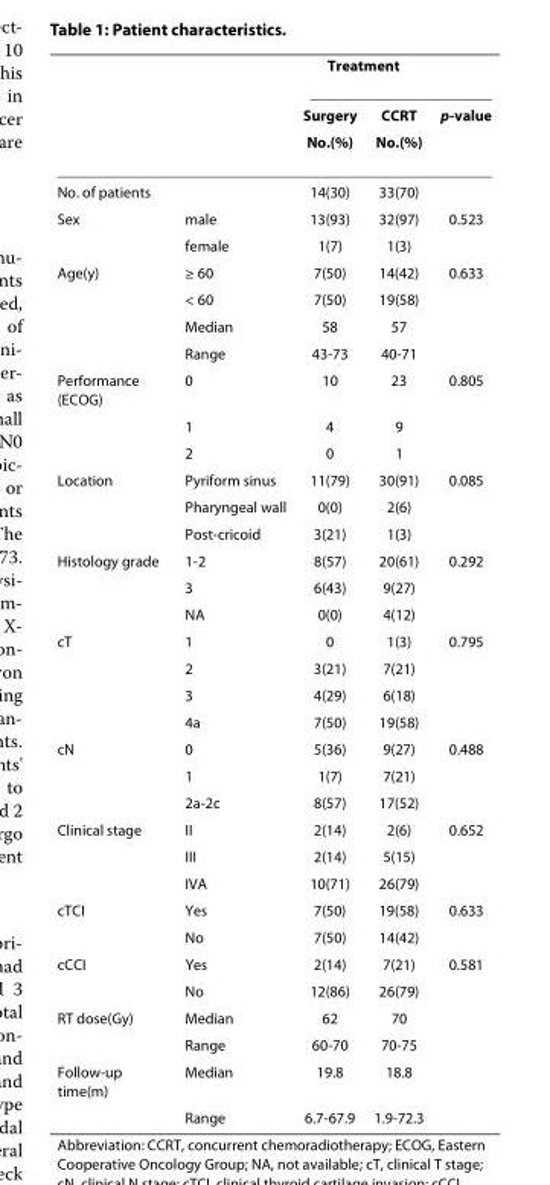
<table><thead><tr><td rowspan="3"></td><td rowspan="3"></td><td colspan="2">Treatment</td><td rowspan="3">p-value</td></tr><tr><td rowspan="2">Surgery No.(%)</td><td rowspan="2">CCRT No.(%)</td></tr><tr></tr></thead><tbody><tr><td>No. of patients</td><td></td><td>14(30)</td><td>33(70)</td><td></td></tr><tr><td rowspan="2">Sex</td><td>male</td><td>13(93)</td><td>32(97)</td><td>0.523</td></tr><tr><td>female</td><td>1(7)</td><td>1(3)</td><td></td></tr><tr><td rowspan="4">Age(y)</td><td>≥ 60</td><td>7(50)</td><td>14(42)</td><td>0.633</td></tr><tr><td>&lt; 60</td><td>7(50)</td><td>19(58)</td><td></td></tr><tr><td>Median</td><td>58</td><td>57</td><td></td></tr><tr><td>Range</td><td>43-73</td><td>40-71</td><td></td></tr><tr><td rowspan="3">Performance (ECOG)</td><td>0</td><td>10</td><td>23</td><td>0.805</td></tr><tr><td>1</td><td>4</td><td>9</td><td></td></tr><tr><td>2</td><td>0</td><td>1</td><td></td></tr><tr><td rowspan="3">Location</td><td>Pyriform sinus</td><td>11(79)</td><td>30(91)</td><td>0.085</td></tr><tr><td>Pharyngeal wall</td><td>0(0)</td><td>2(6)</td><td></td></tr><tr><td>Post-cricoid</td><td>3(21)</td><td>1(3)</td><td></td></tr><tr><td rowspan="3">Histology grade</td><td>1-2</td><td>8(57)</td><td>20(61)</td><td>0.292</td></tr><tr><td>3</td><td>6(43)</td><td>9(27)</td><td></td></tr><tr><td>NA</td><td>0(0)</td><td>4(12)</td><td></td></tr><tr><td rowspan="4">cT</td><td>1</td><td>0</td><td>1(3)</td><td>0.795</td></tr><tr><td>2</td><td>3(21)</td><td>7(21)</td><td></td></tr><tr><td>3</td><td>4(29)</td><td>6(18)</td><td></td></tr><tr><td>4a</td><td>7(50)</td><td>19(58)</td><td></td></tr><tr><td rowspan="3">cN</td><td>0</td><td>5(36)</td><td>9(27)</td><td>0.488</td></tr><tr><td>1</td><td>1(7)</td><td>7(21)</td><td></td></tr><tr><td>2a-2c</td><td>8(57)</td><td>17(52)</td><td></td></tr><tr><td rowspan="3">Clinical stage</td><td>II</td><td>2(14)</td><td>2(6)</td><td>0.652</td></tr><tr><td>III</td><td>2(14)</td><td>5(15)</td><td></td></tr><tr><td>IVA</td><td>10(71)</td><td>26(79)</td><td></td></tr><tr><td rowspan="2">cTCI</td><td>Yes</td><td>7(50)</td><td>19(58)</td><td>0.633</td></tr><tr><td>No</td><td>7(50)</td><td>14(42)</td><td></td></tr><tr><td rowspan="2">cCCI</td><td>Yes</td><td>2(14)</td><td>7(21)</td><td>0.581</td></tr><tr><td>No</td><td>12(86)</td><td>26(79)</td><td></td></tr><tr><td rowspan="2">RT dose(Gy)</td><td>Median</td><td>62</td><td>70</td><td></td></tr><tr><td>Range</td><td>60-70</td><td>70-75</td><td></td></tr><tr><td rowspan="2">Follow-up time(m)</td><td>Median</td><td>19.8</td><td>18.8</td><td></td></tr><tr><td>Range</td><td>6.7-67.9</td><td>1.9-72.3</td><td></td></tr></tbody></table>